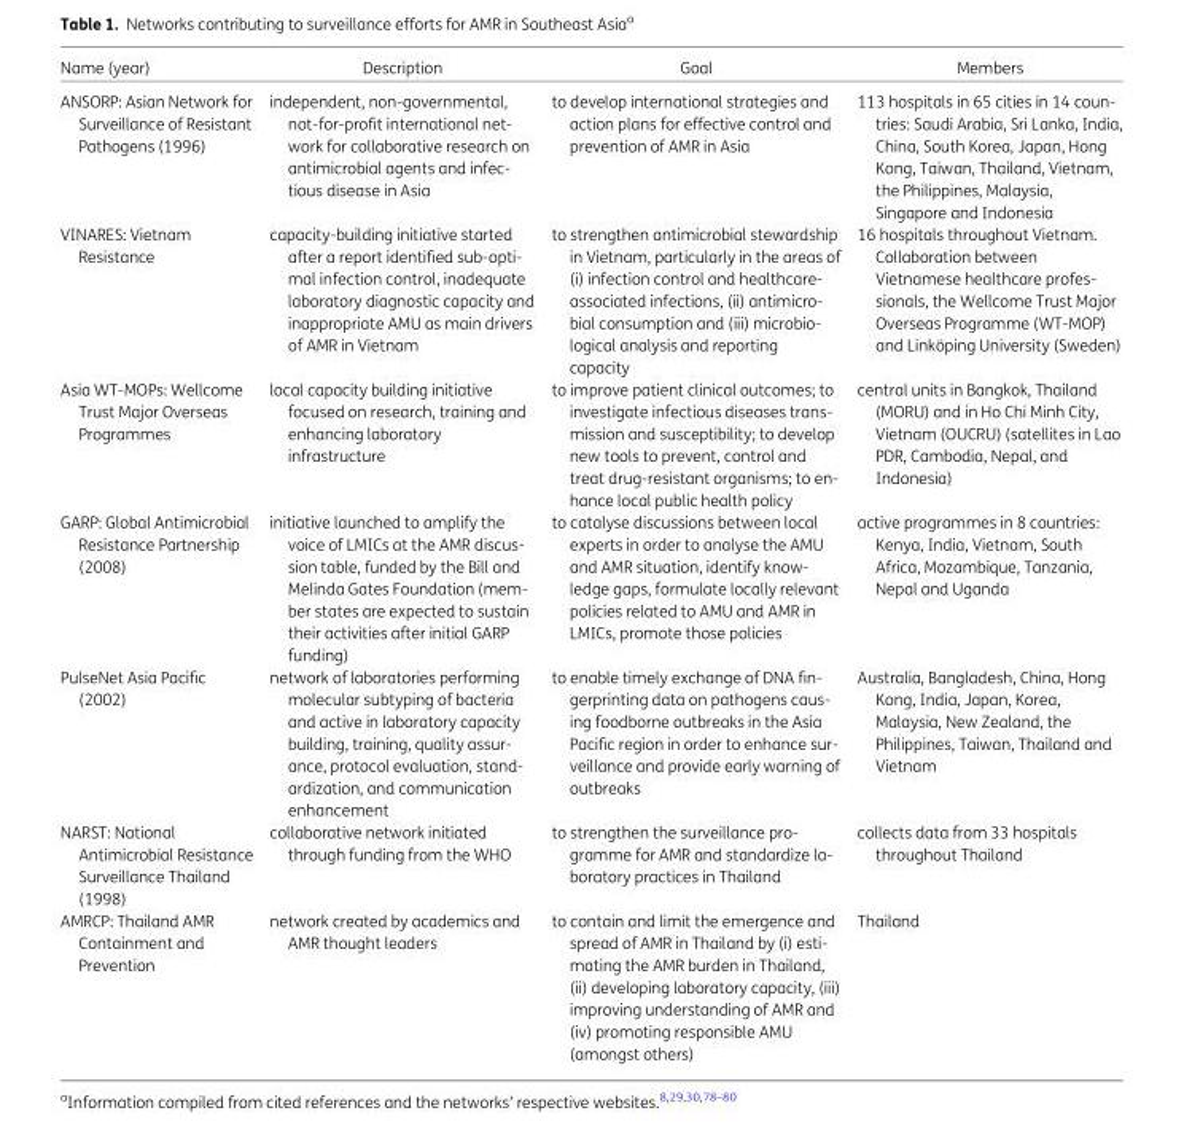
<table><thead><tr><td>Name (year)</td><td>Description</td><td>Goal</td><td>Members</td></tr></thead><tbody><tr><td>ANSORP: Asian Network for Surveillance of Resistant Pathogens (1996)</td><td>independent, non-governmental, not-for-profit international net- work for collaborative research on antimicrobial agents and infec- tious disease in Asia</td><td>to develop international strategies and action plans for effective control and prevention of AMR in Asia</td><td>113 hospitals in 65 cities in 14 coun- tries: Saudi Arabia, Sri Lanka, India, China, South Korea, Japan, Hong Kong, Taiwan, Thailand, Vietnam, the Philippines, Malaysia, Singapore and Indonesia</td></tr><tr><td>VINARES: Vietnam Resistance</td><td>capacity-building initiative started after a report identified sub-opti- mal infection control, inadequate laboratory diagnostic capacity and inappropriate AMU as main drivers of AMR in Vietnam</td><td>to strengthen antimicrobial stewardship in Vietnam, particularly in the areas of (i) infection control and healthcare- associated infections, (ii) antimicro- bial consumption and (iii) microbio- logical analysis and reporting capacity</td><td>16 hospitals throughout Vietnam. Collaboration between Vietnamese healthcare profes- sionals, the Wellcome Trust Major Overseas Programme (WT-MOP) and Linko¨ping University (Sweden)</td></tr><tr><td>Asia WT-MOPs: Wellcome Trust Major Overseas Programmes</td><td>local capacity building initiative focused on research, training and enhancing laboratory infrastructure</td><td>to improve patient clinical outcomes; to investigate infectious diseases trans- mission and susceptibility; to develop new tools to prevent, control and treat drug-resistant organisms; to en- hance local public health policy</td><td>central units in Bangkok, Thailand (MORU) and in Ho Chi Minh City, Vietnam (OUCRU) (satellites in Lao PDR, Cambodia, Nepal, and Indonesia)</td></tr><tr><td>GARP: Global Antimicrobial Resistance Partnership (2008)</td><td>initiative launched to amplify the voice of LMICs at the AMR discus- sion table, funded by the Bill and Melinda Gates Foundation (mem- ber states are expected to sustain their activities after initial GARP funding)</td><td>to catalyse discussions between local experts in order to analyse the AMU and AMR situation, identify know- ledge gaps, formulate locally relevant policies related to AMU and AMR in LMICs, promote those policies</td><td>active programmes in 8 countries: Kenya, India, Vietnam, South Africa, Mozambique, Tanzania, Nepal and Uganda</td></tr><tr><td>PulseNet Asia Pacific (2002)</td><td>network of laboratories performing molecular subtyping of bacteria and active in laboratory capacity building, training, quality assur- ance, protocol evaluation, stand- ardization, and communication enhancement</td><td>to enable timely exchange of DNA fin- gerprinting data on pathogens caus- ing foodborne outbreaks in the Asia Pacific region in order to enhance sur- veillance and provide early warning of outbreaks</td><td>Australia, Bangladesh, China, Hong Kong, India, Japan, Korea, Malaysia, New Zealand, the Philippines, Taiwan, Thailand and Vietnam</td></tr><tr><td>NARST: National Antimicrobial Resistance Surveillance Thailand (1998)</td><td>collaborative network initiated through funding from the WHO</td><td>to strengthen the surveillance pro- gramme for AMR and standardize la- boratory practices in Thailand</td><td>collects data from 33 hospitals throughout Thailand</td></tr><tr><td>AMRCP: Thailand AMR Containment and Prevention</td><td>network created by academics and AMR thought leaders</td><td>to contain and limit the emergence and spread of AMR in Thailand by (i) esti- mating the AMR burden in Thailand, (ii) developing laboratory capacity, (iii) improving understanding of AMR and (iv) promoting responsible AMU (amongst others)</td><td>Thailand</td></tr></tbody></table>